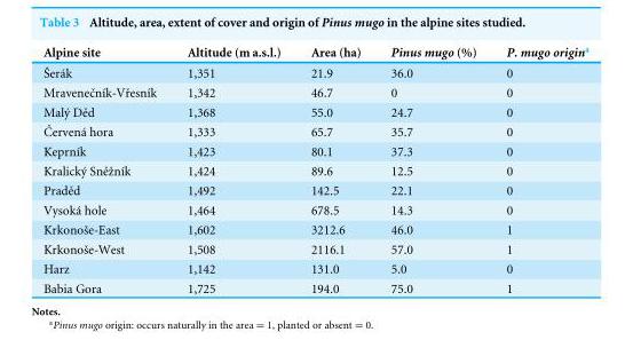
<table><thead><tr><td>Alpine site</td><td>Altitude (m a.s.l.)</td><td>Area (ha)</td><td>Pinus mugo (%)</td><td>P. mugo origin<sup>a</sup></td></tr></thead><tbody><tr><td>Šerák</td><td>1,351</td><td>21.9</td><td>36.0</td><td>0</td></tr><tr><td>Mravenečník-Vřesník</td><td>1,342</td><td>46.7</td><td>0</td><td>0</td></tr><tr><td>Malý Děd</td><td>1,368</td><td>55.0</td><td>24.7</td><td>0</td></tr><tr><td>Červená hora</td><td>1,333</td><td>65.7</td><td>35.7</td><td>0</td></tr><tr><td>Keprník</td><td>1,423</td><td>80.1</td><td>37.3</td><td>0</td></tr><tr><td>Kralický Sněžník</td><td>1,424</td><td>89.6</td><td>12.5</td><td>0</td></tr><tr><td>Praděd</td><td>1,492</td><td>142.5</td><td>22.1</td><td>0</td></tr><tr><td>Vysoká hole</td><td>1,464</td><td>678.5</td><td>14.3</td><td>0</td></tr><tr><td>Krkonoše-East</td><td>1,602</td><td>3212.6</td><td>46.0</td><td>1</td></tr><tr><td>Krkonoše-West</td><td>1,508</td><td>2116.1</td><td>57.0</td><td>1</td></tr><tr><td>Harz</td><td>1,142</td><td>131.0</td><td>5.0</td><td>0</td></tr><tr><td>Babia Gora</td><td>1,725</td><td>194.0</td><td>75.0</td><td>1</td></tr></tbody></table>